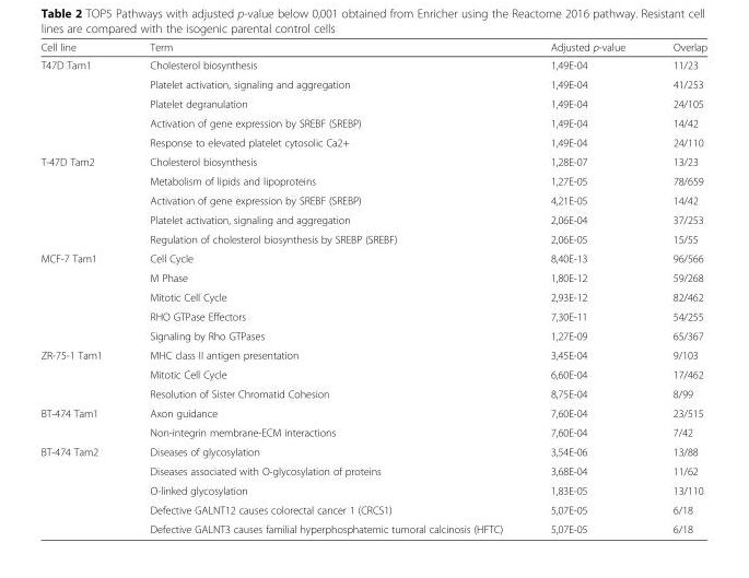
<table><thead><tr><td>Cell line</td><td>Term</td><td>Adjusted p-value</td><td>Overlap</td></tr></thead><tbody><tr><td rowspan="5">T47D Tam1</td><td>Cholesterol biosynthesis</td><td>1,49E-04</td><td>11/23</td></tr><tr><td>Platelet activation, signaling and aggregation</td><td>1,49E-04</td><td>41/253</td></tr><tr><td>Platelet degranulation</td><td>1,49E-04</td><td>24/105</td></tr><tr><td>Activation of gene expression by SREBF (SREBP)</td><td>1,49E-04</td><td>14/42</td></tr><tr><td>Response to elevated platelet cytosolic Ca2+</td><td>1,49E-04</td><td>24/110</td></tr><tr><td rowspan="5">T-47D Tam2</td><td>Cholesterol biosynthesis</td><td>1,28E-07</td><td>13/23</td></tr><tr><td>Metabolism of lipids and lipoproteins</td><td>1,27E-05</td><td>78/659</td></tr><tr><td>Activation of gene expression by SREBF (SREBP)</td><td>4,21E-05</td><td>14/42</td></tr><tr><td>Platelet activation, signaling and aggregation</td><td>2,06E-04</td><td>37/253</td></tr><tr><td>Regulation of cholesterol biosynthesis by SREBP (SREBF)</td><td>2,06E-05</td><td>15/55</td></tr><tr><td rowspan="5">MCF-7 Tam1</td><td>Cell Cycle</td><td>8,40E-13</td><td>96/566</td></tr><tr><td>M Phase</td><td>1,80E-12</td><td>59/268</td></tr><tr><td>Mitotic Cell Cycle</td><td>2,93E-12</td><td>82/462</td></tr><tr><td>RHO GTPase Effectors</td><td>7,30E-11</td><td>54/255</td></tr><tr><td>Signaling by Rho GTPases</td><td>1,27E-09</td><td>65/367</td></tr><tr><td rowspan="3">ZR-75-1 Tam1</td><td>MHC class II antigen presentation</td><td>3,45E-04</td><td>9/103</td></tr><tr><td>Mitotic Cell Cycle</td><td>6,60E-04</td><td>17/462</td></tr><tr><td>Resolution of Sister Chromatid Cohesion</td><td>8,75E-04</td><td>8/99</td></tr><tr><td rowspan="2">BT-474 Tam1</td><td>Axon guidance</td><td>7,60E-04</td><td>23/515</td></tr><tr><td>Non-integrin membrane-ECM interactions</td><td>7,60E-04</td><td>7/42</td></tr><tr><td rowspan="5">BT-474 Tam2</td><td>Diseases of glycosylation</td><td>3,54E-06</td><td>13/88</td></tr><tr><td>Diseases associated with O-glycosylation of proteins</td><td>3,68E-04</td><td>11/62</td></tr><tr><td>O-linked glycosylation</td><td>1,83E-05</td><td>13/110</td></tr><tr><td>Defective GALNT12 causes colorectal cancer 1 (CRCS1)</td><td>5,07E-05</td><td>6/18</td></tr><tr><td>Defective GALNT3 causes familial hyperphosphatemic tumoral calcinosis (HFTC)</td><td>5,07E-05</td><td>6/18</td></tr></tbody></table>